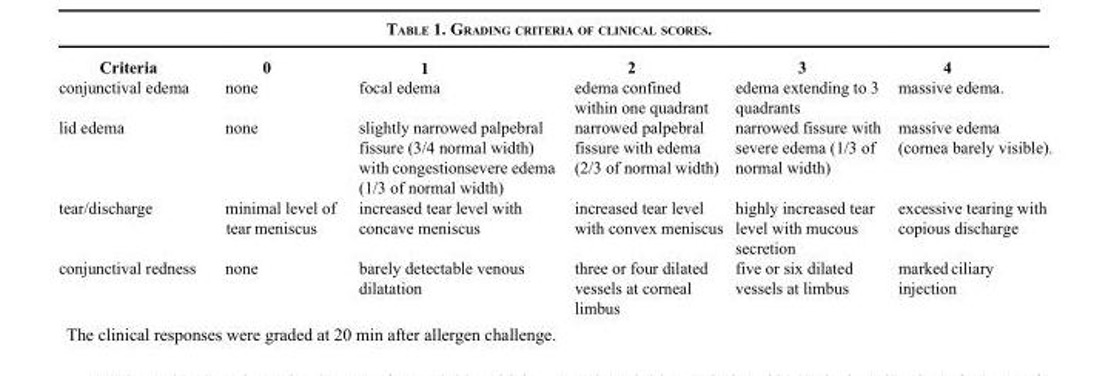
<table><thead><tr><td>Criteria</td><td>0</td><td>1</td><td>2</td><td>3</td><td>4</td></tr></thead><tbody><tr><td>conjunctival edema</td><td>none</td><td>focal edema</td><td>edema confined within one quadrant</td><td>edema extending to 3 quadrants</td><td>massive edema.</td></tr><tr><td>lid edema</td><td>none</td><td>slightly narrowed palpebral fissure (3/4 normal width) with congestionsevere edema (1/3 of normal width)</td><td>narrowed palpebral fissure with edema (2/3 of normal width)</td><td>narrowed fissure with severe edema (1/3 of normal width)</td><td>massive edema (cornea barely visible).</td></tr><tr><td>tear/discharge</td><td>minimal level of tear meniscus</td><td>increased tear level with concave meniscus</td><td>increased tear level with convex meniscus</td><td>highly increased tear level with mucous secretion</td><td>excessive tearing with copious discharge</td></tr><tr><td>conjunctival redness</td><td>none</td><td>barely detectable venous dilatation</td><td>three or four dilated vessels at corneal limbus</td><td>five or six dilated vessels at limbus</td><td>marked ciliary injection</td></tr></tbody></table>